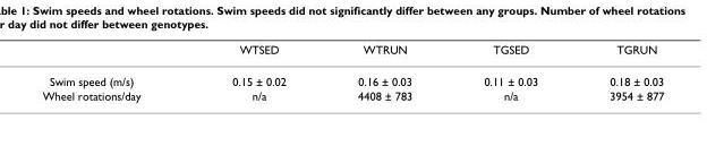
<table><thead><tr><td></td><td>WTSED</td><td>WTRUN</td><td>TGSED</td><td>TGRUN</td></tr></thead><tbody><tr><td>Swim speed (m/s)</td><td>0.15 ± 0.02</td><td>0.16 ± 0.03</td><td>0.11 ± 0.03</td><td>0.18 ± 0.03</td></tr><tr><td>Wheel rotations/day</td><td>n/a</td><td>4408 ± 783</td><td>n/a</td><td>3954 ± 877</td></tr></tbody></table>